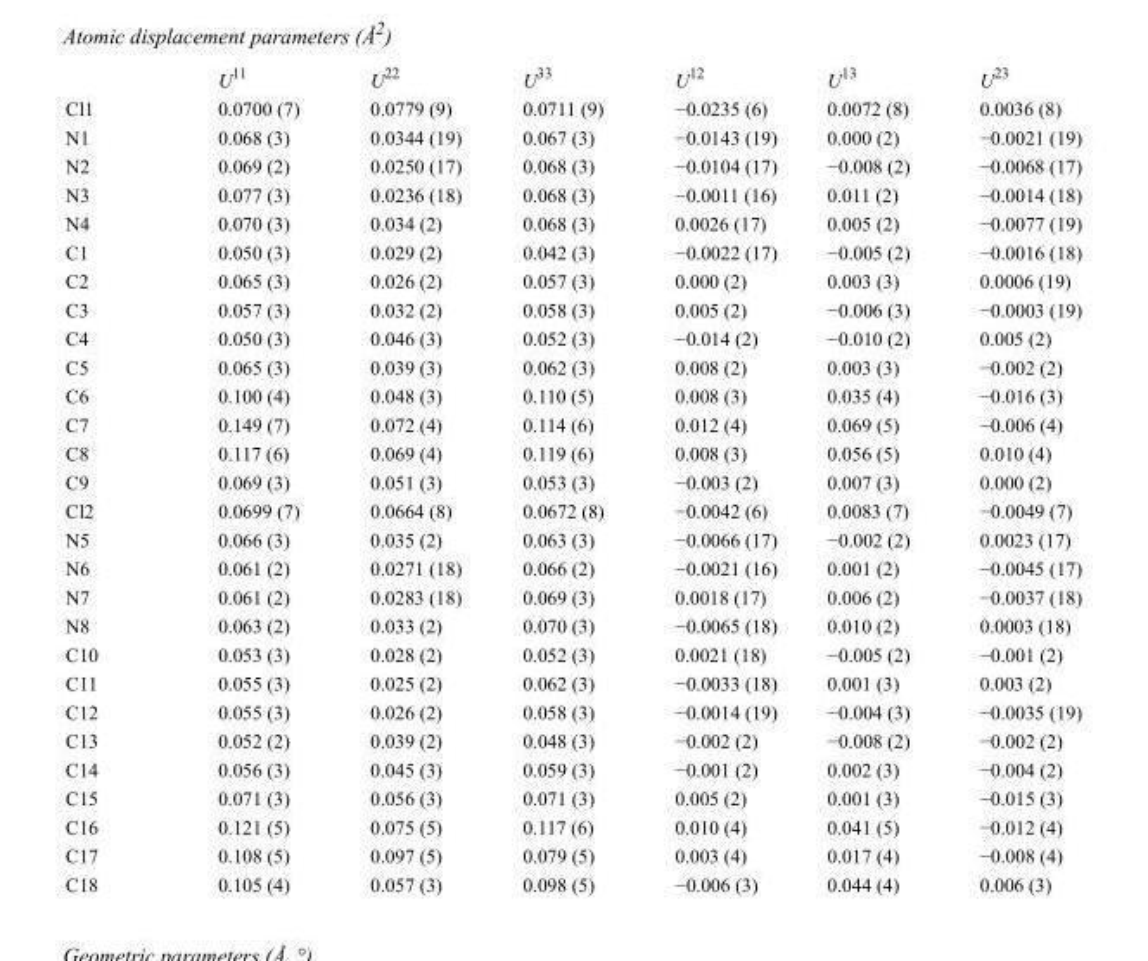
<table><thead><tr><td></td><td>U<sup>11</sup></td><td>U<sup>22</sup></td><td>U<sup>33</sup></td><td>U<sup>12</sup></td><td>U<sup>13</sup></td><td>U<sup>23</sup></td></tr></thead><tbody><tr><td>Cl1</td><td>0.0700 (7)</td><td>0.0779 (9)</td><td>0.0711 (9)</td><td>−0.0235 (6)</td><td>0.0072 (8)</td><td>0.0036 (8)</td></tr><tr><td>N1</td><td>0.068 (3)</td><td>0.0344 (19)</td><td>0.067 (3)</td><td>−0.0143 (19)</td><td>0.000 (2)</td><td>−0.0021 (19)</td></tr><tr><td>N2</td><td>0.069 (2)</td><td>0.0250 (17)</td><td>0.068 (3)</td><td>−0.0104 (17)</td><td>−0.008 (2)</td><td>−0.0068 (17)</td></tr><tr><td>N3</td><td>0.077 (3)</td><td>0.0236 (18)</td><td>0.068 (3)</td><td>−0.0011 (16)</td><td>0.011 (2)</td><td>−0.0014 (18)</td></tr><tr><td>N4</td><td>0.070 (3)</td><td>0.034 (2)</td><td>0.068 (3)</td><td>0.0026 (17)</td><td>0.005 (2)</td><td>−0.0077 (19)</td></tr><tr><td>C1</td><td>0.050 (3)</td><td>0.029 (2)</td><td>0.042 (3)</td><td>−0.0022 (17)</td><td>−0.005 (2)</td><td>−0.0016 (18)</td></tr><tr><td>C2</td><td>0.065 (3)</td><td>0.026 (2)</td><td>0.057 (3)</td><td>0.000 (2)</td><td>0.003 (3)</td><td>0.0006 (19)</td></tr><tr><td>C3</td><td>0.057 (3)</td><td>0.032 (2)</td><td>0.058 (3)</td><td>0.005 (2)</td><td>−0.006 (3)</td><td>−0.0003 (19)</td></tr><tr><td>C4</td><td>0.050 (3)</td><td>0.046 (3)</td><td>0.052 (3)</td><td>−0.014 (2)</td><td>−0.010 (2)</td><td>0.005 (2)</td></tr><tr><td>C5</td><td>0.065 (3)</td><td>0.039 (3)</td><td>0.062 (3)</td><td>0.008 (2)</td><td>0.003 (3)</td><td>−0.002 (2)</td></tr><tr><td>C6</td><td>0.100 (4)</td><td>0.048 (3)</td><td>0.110 (5)</td><td>0.008 (3)</td><td>0.035 (4)</td><td>−0.016 (3)</td></tr><tr><td>C7</td><td>0.149 (7)</td><td>0.072 (4)</td><td>0.114 (6)</td><td>0.012 (4)</td><td>0.069 (5)</td><td>−0.006 (4)</td></tr><tr><td>C8</td><td>0.117 (6)</td><td>0.069 (4)</td><td>0.119 (6)</td><td>0.008 (3)</td><td>0.056 (5)</td><td>0.010 (4)</td></tr><tr><td>C9</td><td>0.069 (3)</td><td>0.051 (3)</td><td>0.053 (3)</td><td>−0.003 (2)</td><td>0.007 (3)</td><td>0.000 (2)</td></tr><tr><td>Cl2</td><td>0.0699 (7)</td><td>0.0664 (8)</td><td>0.0672 (8)</td><td>−0.0042 (6)</td><td>0.0083 (7)</td><td>−0.0049 (7)</td></tr><tr><td>N5</td><td>0.066 (3)</td><td>0.035 (2)</td><td>0.063 (3)</td><td>−0.0066 (17)</td><td>−0.002 (2)</td><td>0.0023 (17)</td></tr><tr><td>N6</td><td>0.061 (2)</td><td>0.0271 (18)</td><td>0.066 (2)</td><td>−0.0021 (16)</td><td>0.001 (2)</td><td>−0.0045 (17)</td></tr><tr><td>N7</td><td>0.061 (2)</td><td>0.0283 (18)</td><td>0.069 (3)</td><td>0.0018 (17)</td><td>0.006 (2)</td><td>−0.0037 (18)</td></tr><tr><td>N8</td><td>0.063 (2)</td><td>0.033 (2)</td><td>0.070 (3)</td><td>−0.0065 (18)</td><td>0.010 (2)</td><td>0.0003 (18)</td></tr><tr><td>C10</td><td>0.053 (3)</td><td>0.028 (2)</td><td>0.052 (3)</td><td>0.0021 (18)</td><td>−0.005 (2)</td><td>−0.001 (2)</td></tr><tr><td>C11</td><td>0.055 (3)</td><td>0.025 (2)</td><td>0.062 (3)</td><td>−0.0033 (18)</td><td>0.001 (3)</td><td>0.003 (2)</td></tr><tr><td>C12</td><td>0.055 (3)</td><td>0.026 (2)</td><td>0.058 (3)</td><td>−0.0014 (19)</td><td>−0.004 (3)</td><td>−0.0035 (19)</td></tr><tr><td>C13</td><td>0.052 (2)</td><td>0.039 (2)</td><td>0.048 (3)</td><td>−0.002 (2)</td><td>−0.008 (2)</td><td>−0.002 (2)</td></tr><tr><td>C14</td><td>0.056 (3)</td><td>0.045 (3)</td><td>0.059 (3)</td><td>−0.001 (2)</td><td>0.002 (3)</td><td>−0.004 (2)</td></tr><tr><td>C15</td><td>0.071 (3)</td><td>0.056 (3)</td><td>0.071 (3)</td><td>0.005 (2)</td><td>0.001 (3)</td><td>−0.015 (3)</td></tr><tr><td>C16</td><td>0.121 (5)</td><td>0.075 (5)</td><td>0.117 (6)</td><td>0.010 (4)</td><td>0.041 (5)</td><td>−0.012 (4)</td></tr><tr><td>C17</td><td>0.108 (5)</td><td>0.097 (5)</td><td>0.079 (5)</td><td>0.003 (4)</td><td>0.017 (4)</td><td>−0.008 (4)</td></tr><tr><td>C18</td><td>0.105 (4)</td><td>0.057 (3)</td><td>0.098 (5)</td><td>−0.006 (3)</td><td>0.044 (4)</td><td>0.006 (3)</td></tr></tbody></table>